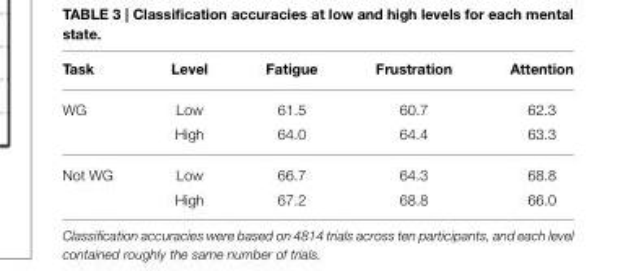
<table><thead><tr><td>Task</td><td>Level</td><td>Fatigue</td><td>Frustration</td><td>Attention</td></tr></thead><tbody><tr><td rowspan="2">WG</td><td>Low</td><td>61.5</td><td>60.7</td><td>62.3</td></tr><tr><td>High</td><td>64.0</td><td>64.4</td><td>63.3</td></tr><tr><td rowspan="2">Not WG</td><td>Low</td><td>66.7</td><td>64.3</td><td>68.8</td></tr><tr><td>High</td><td>67.2</td><td>68.8</td><td>66.0</td></tr></tbody></table>